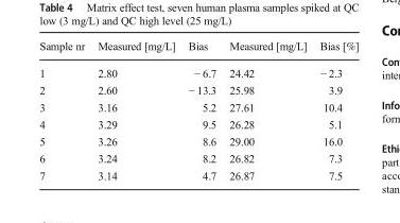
<table><thead><tr><td>Sample nr</td><td>Measured [mg/L]</td><td>Bias</td><td>Measured [mg/L]</td><td>Bias [%]</td></tr></thead><tbody><tr><td>1</td><td>2.80</td><td>− 6.7</td><td>24.42</td><td>− 2.3</td></tr><tr><td>2</td><td>2.60</td><td>− 13.3</td><td>25.98</td><td>3.9</td></tr><tr><td>3</td><td>3.16</td><td>5.2</td><td>27.61</td><td>10.4</td></tr><tr><td>4</td><td>3.29</td><td>9.5</td><td>26.28</td><td>5.1</td></tr><tr><td>5</td><td>3.26</td><td>8.6</td><td>29.00</td><td>16.0</td></tr><tr><td>6</td><td>3.24</td><td>8.2</td><td>26.82</td><td>7.3</td></tr><tr><td>7</td><td>3.14</td><td>4.7</td><td>26.87</td><td>7.5</td></tr></tbody></table>